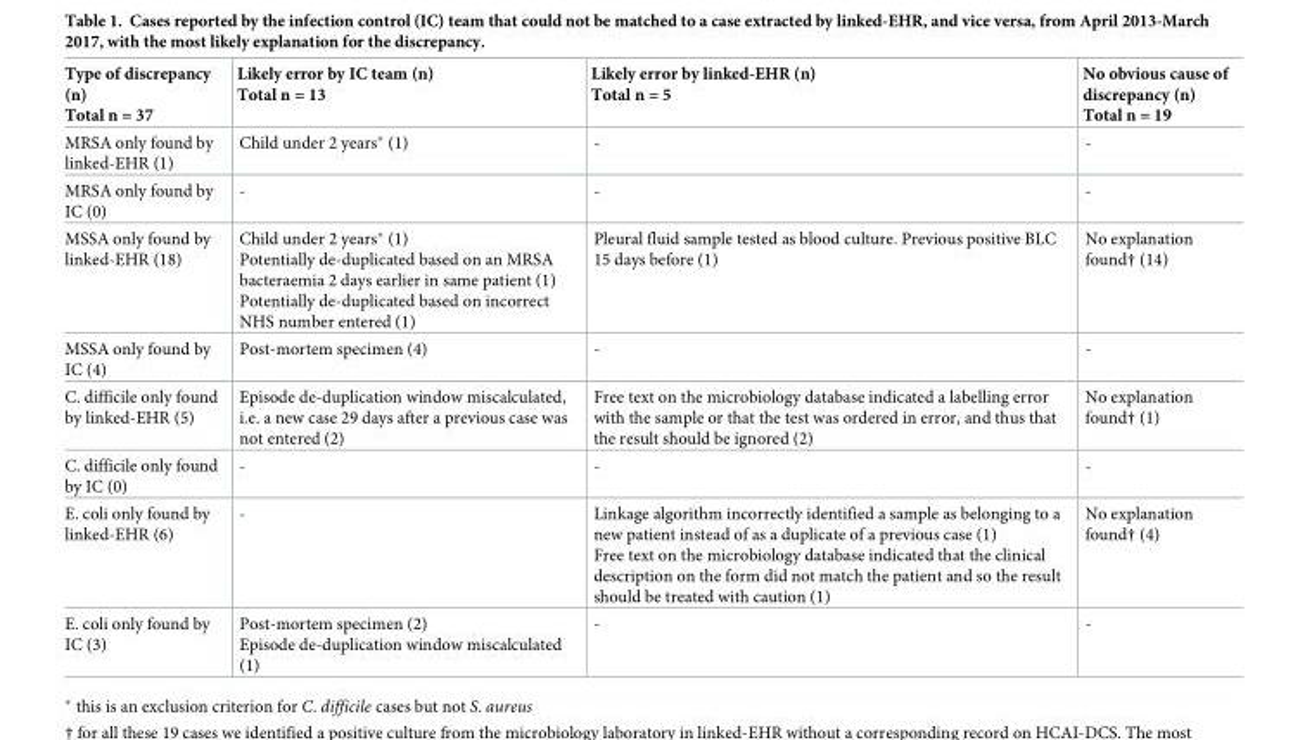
<table><thead><tr><td>Type of discrepancy (n) Total n = 37</td><td>Likely error by IC team (n) Total n = 13</td><td>Likely error by linked-EHR (n) Total n = 5</td><td>No obvious cause of discrepancy (n) Total n = 19</td></tr></thead><tbody><tr><td>MRSA only found by linked-EHR (1)</td><td>Child under 2 years* (1)</td><td>-</td><td>-</td></tr><tr><td>MRSA only found by IC (0)</td><td>-</td><td>-</td><td>-</td></tr><tr><td>MSSA only found by linked-EHR (18)</td><td>Child under 2 years* (1) Potentially de-duplicated based on an MRSA bacteraemia 2 days earlier in same patient (1) Potentially de-duplicated based on incorrect NHS number entered (1)</td><td>Pleural fluid sample tested as blood culture. Previous positive BLC 15 days before (1)</td><td>No explanation found† (14)</td></tr><tr><td>MSSA only found by IC (4)</td><td>Post-mortem specimen (4)</td><td>-</td><td>-</td></tr><tr><td>C. difficile only found by linked-EHR (5)</td><td>Episode de-duplication window miscalculated, i.e. a new case 29 days after a previous case was not entered (2)</td><td>Free text on the microbiology database indicated a labelling error with the sample or that the test was ordered in error, and thus that the result should be ignored (2)</td><td>No explanation found† (1)</td></tr><tr><td>C. difficile only found by IC (0)</td><td>-</td><td>-</td><td>-</td></tr><tr><td>E. coli only found by linked-EHR (6)</td><td>-</td><td>Linkage algorithm incorrectly identified a sample as belonging to a new patient instead of as a duplicate of a previous case (1) Free text on the microbiology database indicated that the clinical description on the form did not match the patient and so the result should be treated with caution (1)</td><td>No explanation found† (4)</td></tr><tr><td>E. coli only found by IC (3)</td><td>Post-mortem specimen (2) Episode de-duplication window miscalculated (1)</td><td>-</td><td>-</td></tr></tbody></table>